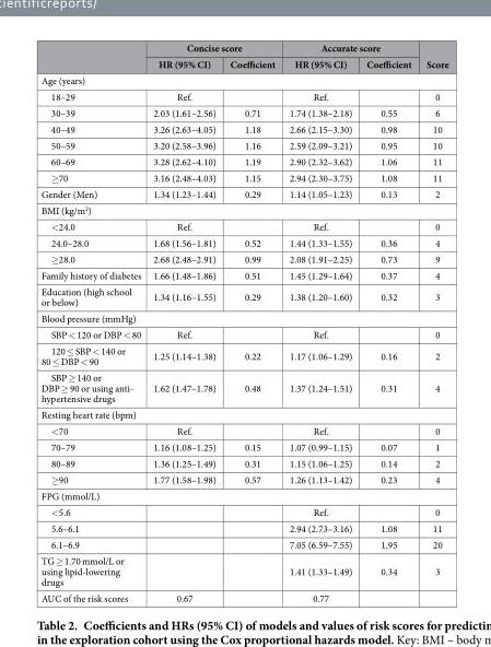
<table><thead><tr><td rowspan="2"></td><td colspan="2">Concise score</td><td colspan="2">Accurate score</td><td rowspan="2">Score</td></tr><tr><td>HR (95% CI)</td><td>Coefficient</td><td>HR (95% CI)</td><td>Coefficient</td></tr></thead><tbody><tr><td colspan="6">Age (years)</td></tr><tr><td>18–29</td><td>Ref.</td><td></td><td>Ref.</td><td></td><td>0</td></tr><tr><td>30–39</td><td>2.03 (1.61–2.56)</td><td>0.71</td><td>1.74 (1.38–2.18)</td><td>0.55</td><td>6</td></tr><tr><td>40–49</td><td>3.26 (2.63–4.05)</td><td>1.18</td><td>2.66 (2.15–3.30)</td><td>0.98</td><td>10</td></tr><tr><td>50–59</td><td>3.20 (2.58–3.96)</td><td>1.16</td><td>2.59 (2.09–3.21)</td><td>0.95</td><td>10</td></tr><tr><td>60–69</td><td>3.28 (2.62–4.10)</td><td>1.19</td><td>2.90 (2.32–3.62)</td><td>1.06</td><td>11</td></tr><tr><td>≥ 70</td><td>3.16 (2.48–4.03)</td><td>1.15</td><td>2.94 (2.30–3.75)</td><td>1.08</td><td>11</td></tr><tr><td>Gender (Men)</td><td>1.34 (1.23–1.44)</td><td>0.29</td><td>1.14 (1.05–1.23)</td><td>0.13</td><td>2</td></tr><tr><td colspan="6">BMI (kg/m<sup>2</sup>)</td></tr><tr><td>&lt; 24.0</td><td>Ref.</td><td></td><td>Ref.</td><td></td><td>0</td></tr><tr><td>24.0–28.0</td><td>1.68 (1.56–1.81)</td><td>0.52</td><td>1.44 (1.33–1.55)</td><td>0.36</td><td>4</td></tr><tr><td>≥ 28.0</td><td>2.68 (2.48–2.91)</td><td>0.99</td><td>2.08 (1.91–2.25)</td><td>0.73</td><td>9</td></tr><tr><td>Family history of diabetes</td><td>1.66 (1.48–1.86)</td><td>0.51</td><td>1.45 (1.29–1.64)</td><td>0.37</td><td>4</td></tr><tr><td>Education (high school or below)</td><td>1.34 (1.16–1.55)</td><td>0.29</td><td>1.38 (1.20–1.60)</td><td>0.32</td><td>3</td></tr><tr><td colspan="6">Blood pressure (mmHg)</td></tr><tr><td>SBP &lt; 120 or DBP &lt; 80</td><td>Ref.</td><td></td><td>Ref.</td><td></td><td>0</td></tr><tr><td>120 ≤ SBP &lt; 140 or 80 ≤ DBP &lt; 90</td><td>1.25 (1.14–1.38)</td><td>0.22</td><td>1.17 (1.06–1.29)</td><td>0.16</td><td>2</td></tr><tr><td>SBP ≥ 140 or DBP ≥ 90 or using anti- hypertensive drugs</td><td>1.62 (1.47–1.78)</td><td>0.48</td><td>1.37 (1.24–1.51)</td><td>0.31</td><td>4</td></tr><tr><td colspan="6">Resting heart rate (bpm)</td></tr><tr><td>&lt; 70</td><td>Ref.</td><td></td><td>Ref.</td><td></td><td>0</td></tr><tr><td>70–79</td><td>1.16 (1.08–1.25)</td><td>0.15</td><td>1.07 (0.99–1.15)</td><td>0.07</td><td>1</td></tr><tr><td>80–89</td><td>1.36 (1.25–1.49)</td><td>0.31</td><td>1.15 (1.06–1.25)</td><td>0.14</td><td>2</td></tr><tr><td>≥ 90</td><td>1.77 (1.58–1.98)</td><td>0.57</td><td>1.26 (1.13–1.42)</td><td>0.23</td><td>4</td></tr><tr><td colspan="6">FPG (mmol/L)</td></tr><tr><td>&lt; 5.6</td><td></td><td></td><td>Ref.</td><td></td><td>0</td></tr><tr><td>5.6–6.1</td><td></td><td></td><td>2.94 (2.73–3.16)</td><td>1.08</td><td>11</td></tr><tr><td>6.1–6.9</td><td></td><td></td><td>7.05 (6.59–7.55)</td><td>1.95</td><td>20</td></tr><tr><td>TG ≥ 1.70 mmol/L or using lipid-lowering drugs</td><td></td><td></td><td>1.41 (1.33–1.49)</td><td>0.34</td><td>3</td></tr><tr><td>AUC of the risk scores</td><td>0.67</td><td></td><td>0.77</td><td></td><td></td></tr></tbody></table>